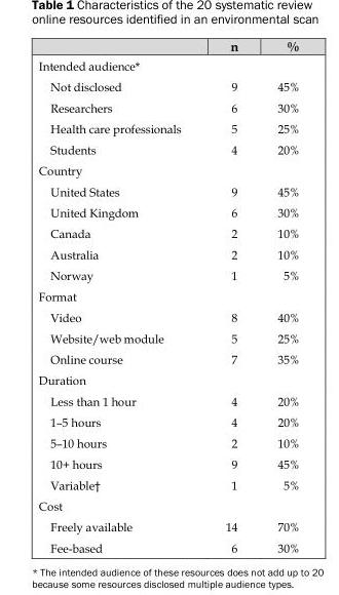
<table><thead><tr><td></td><td>n</td><td>%</td></tr></thead><tbody><tr><td colspan="3">Intended audience*</td></tr><tr><td>Not disclosed</td><td>9</td><td>45%</td></tr><tr><td>Researchers</td><td>6</td><td>30%</td></tr><tr><td>Health care professionals</td><td>5</td><td>25%</td></tr><tr><td>Students</td><td>4</td><td>20%</td></tr><tr><td colspan="3">Country</td></tr><tr><td>United States</td><td>9</td><td>45%</td></tr><tr><td>United Kingdom</td><td>6</td><td>30%</td></tr><tr><td>Canada</td><td>2</td><td>10%</td></tr><tr><td>Australia</td><td>2</td><td>10%</td></tr><tr><td>Norway</td><td>1</td><td>5%</td></tr><tr><td colspan="3">Format</td></tr><tr><td>Video</td><td>8</td><td>40%</td></tr><tr><td>Website/web module</td><td>5</td><td>25%</td></tr><tr><td>Online course</td><td>7</td><td>35%</td></tr><tr><td colspan="3">Duration</td></tr><tr><td>Less than 1 hour</td><td>4</td><td>20%</td></tr><tr><td>1–5 hours</td><td>4</td><td>20%</td></tr><tr><td>5–10 hours</td><td>2</td><td>10%</td></tr><tr><td>10+ hours</td><td>9</td><td>45%</td></tr><tr><td>Variable†</td><td>1</td><td>5%</td></tr><tr><td colspan="3">Cost</td></tr><tr><td>Freely available</td><td>14</td><td>70%</td></tr><tr><td>Fee-based</td><td>6</td><td>30%</td></tr></tbody></table>